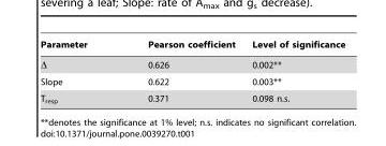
<table><thead><tr><td>Parameter</td><td>Pearson coefficient</td><td>Level of significance</td></tr></thead><tbody><tr><td>Δ</td><td>0.626</td><td>0.002**</td></tr><tr><td>Slope</td><td>0.622</td><td>0.003**</td></tr><tr><td>T<sub>resp</sub></td><td>0.371</td><td>0.098 n.s.</td></tr></tbody></table>